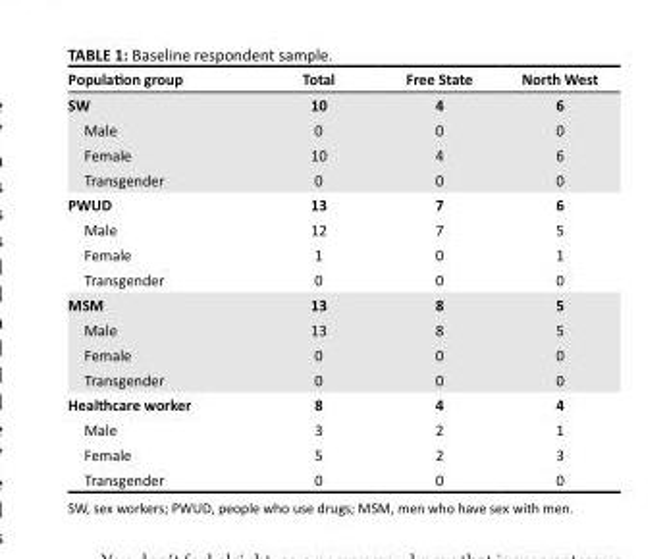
<table><thead><tr><td>Population group</td><td>Total</td><td>Free State</td><td>North West</td></tr></thead><tbody><tr><td>SW</td><td>10</td><td>4</td><td>6</td></tr><tr><td>Male</td><td>0</td><td>0</td><td>0</td></tr><tr><td>Female</td><td>10</td><td>4</td><td>6</td></tr><tr><td>Transgender</td><td>0</td><td>0</td><td>0</td></tr><tr><td>PWUD</td><td>13</td><td>7</td><td>6</td></tr><tr><td>Male</td><td>12</td><td>7</td><td>5</td></tr><tr><td>Female</td><td>1</td><td>0</td><td>1</td></tr><tr><td>Transgender</td><td>0</td><td>0</td><td>0</td></tr><tr><td>MSM</td><td>13</td><td>8</td><td>5</td></tr><tr><td>Male</td><td>13</td><td>8</td><td>5</td></tr><tr><td>Female</td><td>0</td><td>0</td><td>0</td></tr><tr><td>Transgender</td><td>0</td><td>0</td><td>0</td></tr><tr><td>Healthcare worker</td><td>8</td><td>4</td><td>4</td></tr><tr><td>Male</td><td>3</td><td>2</td><td>1</td></tr><tr><td>Female</td><td>5</td><td>2</td><td>3</td></tr><tr><td>Transgender</td><td>0</td><td>0</td><td>0</td></tr></tbody></table>